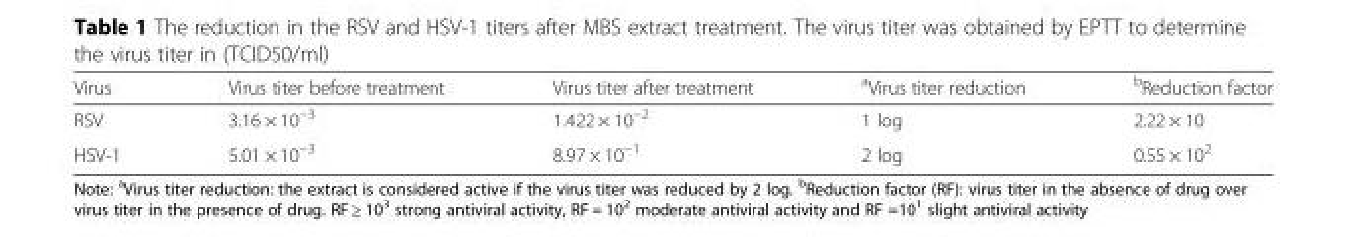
<table><thead><tr><td>Virus</td><td>Virus titer before treatment</td><td>Virus titer after treatment</td><td><sup>a</sup>Virus titer reduction</td><td><sup>b</sup>Reduction factor</td></tr></thead><tbody><tr><td>RSV</td><td>3.16 × 10<sup>−3</sup></td><td>1.422 × 10<sup>−2</sup></td><td>1 log</td><td>2.22 × 10</td></tr><tr><td>HSV-1</td><td>5.01 × 10<sup>−3</sup></td><td>8.97 × 10<sup>−1</sup></td><td>2 log</td><td>0.55 × 10<sup>2</sup></td></tr></tbody></table>